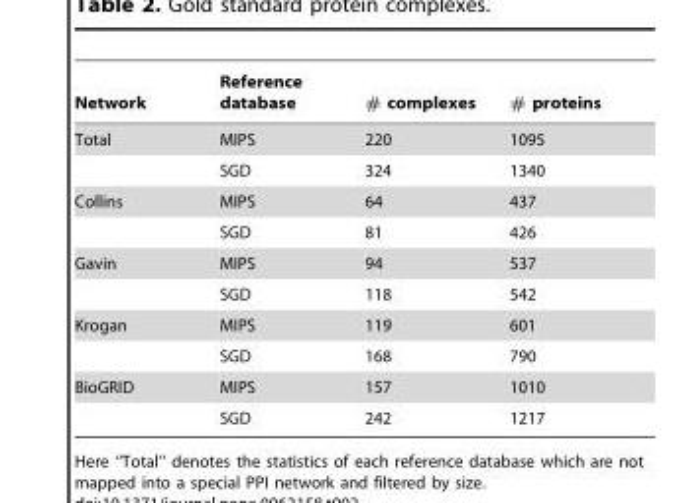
<table><thead><tr><td>Network</td><td>Reference database</td><td># complexes</td><td># proteins</td></tr></thead><tbody><tr><td rowspan="2">Total</td><td>MIPS</td><td>220</td><td>1095</td></tr><tr><td>SGD</td><td>324</td><td>1340</td></tr><tr><td rowspan="2">Collins</td><td>MIPS</td><td>64</td><td>437</td></tr><tr><td>SGD</td><td>81</td><td>426</td></tr><tr><td rowspan="2">Gavin</td><td>MIPS</td><td>94</td><td>537</td></tr><tr><td>SGD</td><td>118</td><td>542</td></tr><tr><td rowspan="2">Krogan</td><td>MIPS</td><td>119</td><td>601</td></tr><tr><td>SGD</td><td>168</td><td>790</td></tr><tr><td rowspan="2">BioGRID</td><td>MIPS</td><td>157</td><td>1010</td></tr><tr><td>SGD</td><td>242</td><td>1217</td></tr></tbody></table>